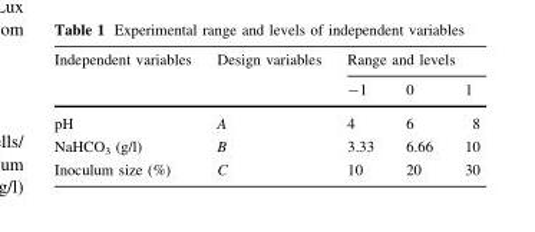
<table><thead><tr><td rowspan="2">Independent variables</td><td rowspan="2">Design variables</td><td colspan="3">Range and levels</td></tr><tr><td>-1</td><td>0</td><td>1</td></tr></thead><tbody><tr><td>pH</td><td>A</td><td>4</td><td>6</td><td>8</td></tr><tr><td>NaHCO<sub>3</sub> (g/l)</td><td>B</td><td>3.33</td><td>6.66</td><td>10</td></tr><tr><td>Inoculum size (%)</td><td>C</td><td>10</td><td>20</td><td>30</td></tr></tbody></table>